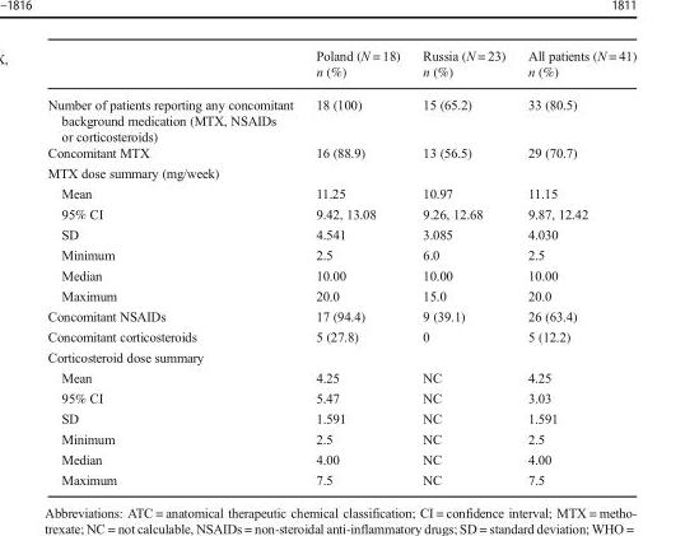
<table><thead><tr><td rowspan="2"></td><td rowspan="2">Poland (N = 18) n (%)</td><td rowspan="2">Russia (N = 23) n (%)</td><td rowspan="2">All patients (N = 41) n (%)</td></tr><tr></tr></thead><tbody><tr><td>Number of patients reporting any concomitant background medication (MTX, NSAIDs or corticosteroids)</td><td>18 (100)</td><td>15 (65.2)</td><td>33 (80.5)</td></tr><tr><td>Concomitant MTX</td><td>16 (88.9)</td><td>13 (56.5)</td><td>29 (70.7)</td></tr><tr><td colspan="4">MTX dose summary (mg/week)</td></tr><tr><td>Mean</td><td>11.25</td><td>10.97</td><td>11.15</td></tr><tr><td>95% CI</td><td>9.42, 13.08</td><td>9.26, 12.68</td><td>9.87, 12.42</td></tr><tr><td>SD</td><td>4.541</td><td>3.085</td><td>4.030</td></tr><tr><td>Minimum</td><td>2.5</td><td>6.0</td><td>2.5</td></tr><tr><td>Median</td><td>10.00</td><td>10.00</td><td>10.00</td></tr><tr><td>Maximum</td><td>20.0</td><td>15.0</td><td>20.0</td></tr><tr><td>Concomitant NSAIDs</td><td>17 (94.4)</td><td>9 (39.1)</td><td>26 (63.4)</td></tr><tr><td>Concomitant corticosteroids</td><td>5 (27.8)</td><td>0</td><td>5 (12.2)</td></tr><tr><td colspan="4">Corticosteroid dose summary</td></tr><tr><td>Mean</td><td>4.25</td><td>NC</td><td>4.25</td></tr><tr><td>95% CI</td><td>5.47</td><td>NC</td><td>3.03</td></tr><tr><td>SD</td><td>1.591</td><td>NC</td><td>1.591</td></tr><tr><td>Minimum</td><td>2.5</td><td>NC</td><td>2.5</td></tr><tr><td>Median</td><td>4.00</td><td>NC</td><td>4.00</td></tr><tr><td>Maximum</td><td>7.5</td><td>NC</td><td>7.5</td></tr></tbody></table>